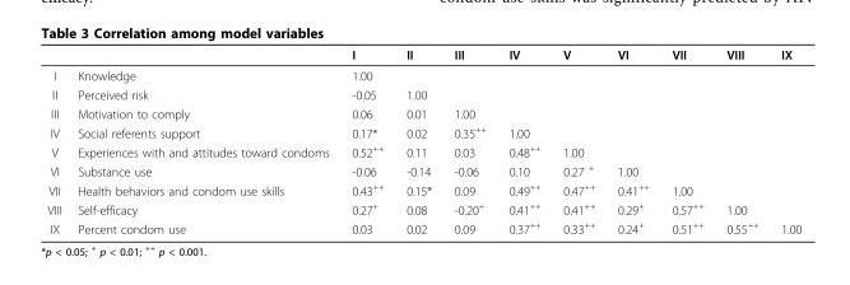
<table><thead><tr><td></td><td></td><td>I</td><td>II</td><td>III</td><td>IV</td><td>V</td><td>VI</td><td>VII</td><td>VIII</td><td>IX</td></tr></thead><tbody><tr><td>I</td><td>Knowledge</td><td>1.00</td><td></td><td></td><td></td><td></td><td></td><td></td><td></td><td></td></tr><tr><td>II</td><td>Perceived risk</td><td>-0.05</td><td>1.00</td><td></td><td></td><td></td><td></td><td></td><td></td><td></td></tr><tr><td>III</td><td>Motivation to comply</td><td>0.06</td><td>0.01</td><td>1.00</td><td></td><td></td><td></td><td></td><td></td><td></td></tr><tr><td>IV</td><td>Social referents support</td><td>0.17*</td><td>0.02</td><td>0.35<sup>++</sup></td><td>1.00</td><td></td><td></td><td></td><td></td><td></td></tr><tr><td>V</td><td>Experiences with and attitudes toward condoms</td><td>0.52<sup>++</sup></td><td>0.11</td><td>0.03</td><td>0.48<sup>++</sup></td><td>1.00</td><td></td><td></td><td></td><td></td></tr><tr><td>VI</td><td>Substance use</td><td>-0.06</td><td>-0.14</td><td>-0.06</td><td>0.10</td><td>0.27 <sup>+</sup></td><td>1.00</td><td></td><td></td><td></td></tr><tr><td>VII</td><td>Health behaviors and condom use skills</td><td>0.43<sup>++</sup></td><td>0.15*</td><td>0.09</td><td>0.49<sup>++</sup></td><td>0.47<sup>++</sup></td><td>0.41<sup>++</sup></td><td>1.00</td><td></td><td></td></tr><tr><td>VIII</td><td>Self-efficacy</td><td>0.27<sup>+</sup></td><td>0.08</td><td>-0.20<sup>+</sup></td><td>0.41<sup>++</sup></td><td>0.41<sup>++</sup></td><td>0.29<sup>+</sup></td><td>0.57<sup>++</sup></td><td>1.00</td><td></td></tr><tr><td>IX</td><td>Percent condom use</td><td>0.03</td><td>0.02</td><td>0.09</td><td>0.37<sup>++</sup></td><td>0.33<sup>++</sup></td><td>0.24<sup>+</sup></td><td>0.51<sup>++</sup></td><td>0.55<sup>++</sup></td><td>1.00</td></tr></tbody></table>